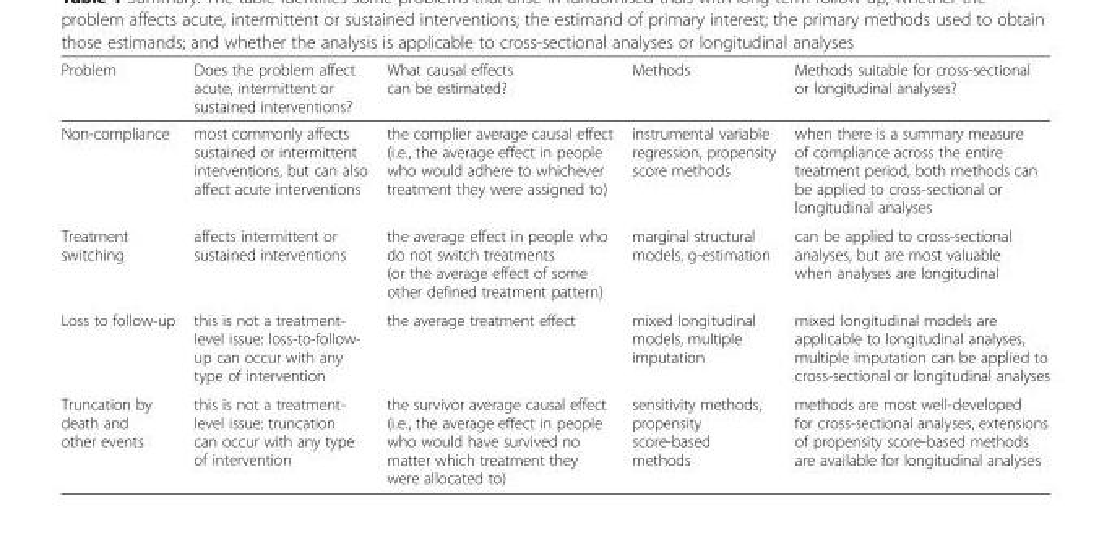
<table><thead><tr><td>Problem</td><td>Does the problem affect acute, intermittent or sustained interventions?</td><td>What causal effects can be estimated?</td><td>Methods</td><td>Methods suitable for cross-sectional or longitudinal analyses?</td></tr></thead><tbody><tr><td>Non-compliance</td><td>most commonly affects sustained or intermittent interventions, but can also affect acute interventions</td><td>the complier average causal effect (i.e., the average effect in people who would adhere to whichever treatment they were assigned to)</td><td>instrumental variable regression, propensity score methods</td><td>when there is a summary measure of compliance across the entire treatment period, both methods can be applied to cross-sectional or longitudinal analyses</td></tr><tr><td>Treatment switching</td><td>affects intermittent or sustained interventions</td><td>the average effect in people who do not switch treatments (or the average effect of some other defined treatment pattern)</td><td>marginal structural models, g-estimation</td><td>can be applied to cross-sectional analyses, but are most valuable when analyses are longitudinal</td></tr><tr><td>Loss to follow-up</td><td>this is not a treatment- level issue: loss-to-follow- up can occur with any type of intervention</td><td>the average treatment effect</td><td>mixed longitudinal models, multiple imputation</td><td>mixed longitudinal models are applicable to longitudinal analyses, multiple imputation can be applied to cross-sectional or longitudinal analyses</td></tr><tr><td>Truncation by death and other events</td><td>this is not a treatment- level issue: truncation can occur with any type of intervention</td><td>the survivor average causal effect (i.e., the average effect in people who would have survived no matter which treatment they were allocated to)</td><td>sensitivity methods, propensity score-based methods</td><td>methods are most well-developed for cross-sectional analyses, extensions of propensity score-based methods are available for longitudinal analyses</td></tr></tbody></table>